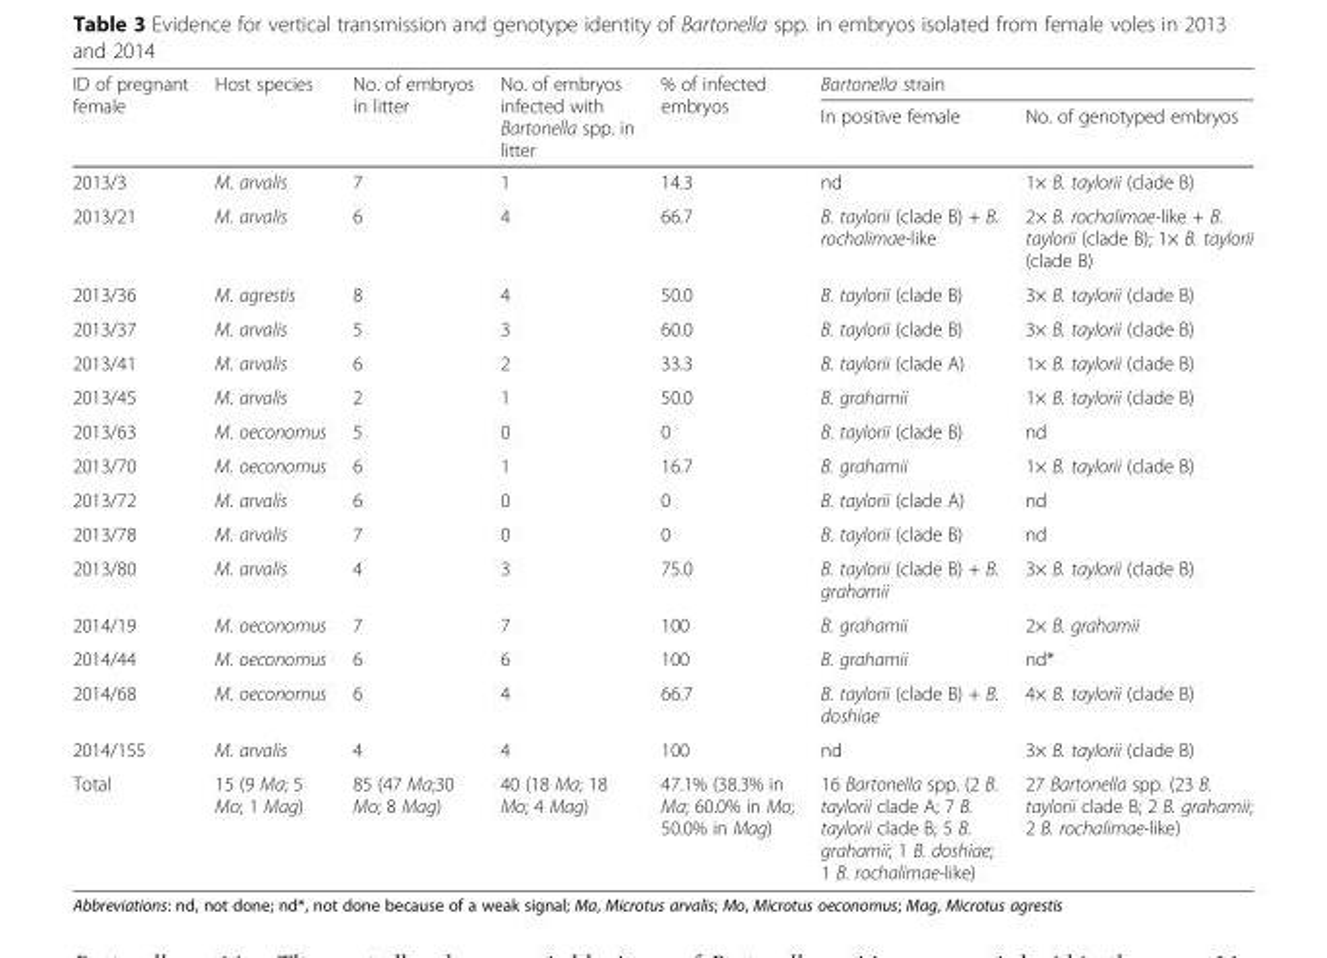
<table><thead><tr><td rowspan="2">ID of pregnant female</td><td rowspan="2">Host species</td><td rowspan="2">No. of embryos in litter</td><td rowspan="2">No. of embryos infected with Bartonella spp. in litter</td><td rowspan="2">% of infected embryos</td><td colspan="2">Bartonella strain</td></tr><tr><td>In positive female</td><td>No. of genotyped embryos</td></tr></thead><tbody><tr><td>2013/3</td><td>M. arvalis</td><td>7</td><td>1</td><td>14.3</td><td>nd</td><td>1× B. taylorii (clade B)</td></tr><tr><td>2013/21</td><td>M. arvalis</td><td>6</td><td>4</td><td>66.7</td><td>B. taylorii (clade B) + B. rochalimae-like</td><td>2× B. rochalimae-like + B. taylorii (clade B); 1× B. taylorii (clade B)</td></tr><tr><td>2013/36</td><td>M. agrestis</td><td>8</td><td>4</td><td>50.0</td><td>B. taylorii (clade B)</td><td>3× B. taylorii (clade B)</td></tr><tr><td>2013/37</td><td>M. arvalis</td><td>5</td><td>3</td><td>60.0</td><td>B. taylorii (clade B)</td><td>3× B. taylorii (clade B)</td></tr><tr><td>2013/41</td><td>M. arvalis</td><td>6</td><td>2</td><td>33.3</td><td>B. taylorii (clade A)</td><td>1× B. taylorii (clade B)</td></tr><tr><td>2013/45</td><td>M. arvalis</td><td>2</td><td>1</td><td>50.0</td><td>B. grahamii</td><td>1× B. taylorii (clade B)</td></tr><tr><td>2013/63</td><td>M. oeconomus</td><td>5</td><td>0</td><td>0</td><td>B. taylorii (clade B)</td><td>nd</td></tr><tr><td>2013/70</td><td>M. oeconomus</td><td>6</td><td>1</td><td>16.7</td><td>B. grahamii</td><td>1× B. taylorii (clade B)</td></tr><tr><td>2013/72</td><td>M. arvalis</td><td>6</td><td>0</td><td>0</td><td>B. taylorii (clade A)</td><td>nd</td></tr><tr><td>2013/78</td><td>M. arvalis</td><td>7</td><td>0</td><td>0</td><td>B. taylorii (clade B)</td><td>nd</td></tr><tr><td>2013/80</td><td>M. arvalis</td><td>4</td><td>3</td><td>75.0</td><td>B. taylorii (clade B) + B. grahamii</td><td>3× B. taylorii (clade B)</td></tr><tr><td>2014/19</td><td>M. oeconomus</td><td>7</td><td>7</td><td>100</td><td>B. grahamii</td><td>2× B. grahamii</td></tr><tr><td>2014/44</td><td>M. oeconomus</td><td>6</td><td>6</td><td>100</td><td>B. grahamii</td><td>nd*</td></tr><tr><td>2014/68</td><td>M. oeconomus</td><td>6</td><td>4</td><td>66.7</td><td>B. taylorii (clade B) + B. doshiae</td><td>4× B. taylorii (clade B)</td></tr><tr><td>2014/155</td><td>M. arvalis</td><td>4</td><td>4</td><td>100</td><td>nd</td><td>3× B. taylorii (clade B)</td></tr><tr><td>Total</td><td>15 (9 Ma; 5 Mo; 1 Mag)</td><td>85 (47 Ma;30 Mo; 8 Mag)</td><td>40 (18 Ma; 18 Mo; 4 Mag)</td><td>47.1% (38.3% in Ma; 60.0% in Mo; 50.0% in Mag)</td><td>16 Bartonella spp. (2 B. taylorii clade A; 7 B. taylorii clade B; 5 B. grahamii; 1 B. doshiae; 1 B. rochalimae-like)</td><td>27 Bartonella spp. (23 B. taylorii clade B; 2 B. grahamii; 2 B. rochalimae-like)</td></tr></tbody></table>